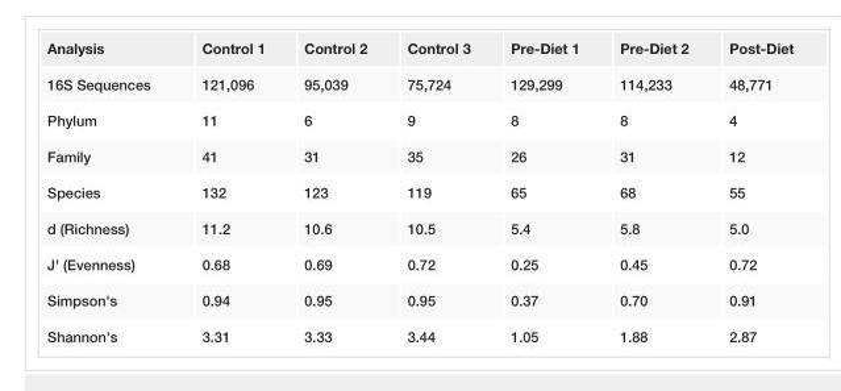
<table><tbody><tr><td>Analysis</td><td>Control 1</td><td>Control 2</td><td>Control 3</td><td>Pre-Diet 1</td><td>Pre-Diet 2</td><td>Post-Diet</td></tr><tr><td>16S Sequences</td><td>121,096</td><td>95,039</td><td>75,724</td><td>129,299</td><td>114,233</td><td>48,771</td></tr><tr><td>Phylum</td><td>11</td><td>6</td><td>9</td><td>8</td><td>8</td><td>4</td></tr><tr><td>Family</td><td>41</td><td>31</td><td>35</td><td>26</td><td>31</td><td>12</td></tr><tr><td>Species</td><td>132</td><td>123</td><td>119</td><td>65</td><td>68</td><td>55</td></tr><tr><td>d (Richness)</td><td>11.2</td><td>10.6</td><td>10.5</td><td>5.4</td><td>5.8</td><td>5.0</td></tr><tr><td>J&#x27; (Evenness)</td><td>0.68</td><td>0.69</td><td>0.72</td><td>0.25</td><td>0.45</td><td>0.72</td></tr><tr><td>Simpson&#x27;s</td><td>0.94</td><td>0.95</td><td>0.95</td><td>0.37</td><td>0.70</td><td>0.91</td></tr><tr><td>Shannon&#x27;s</td><td>3.31</td><td>3.33</td><td>3.44</td><td>1.05</td><td>1.88</td><td>2.87</td></tr></tbody></table>